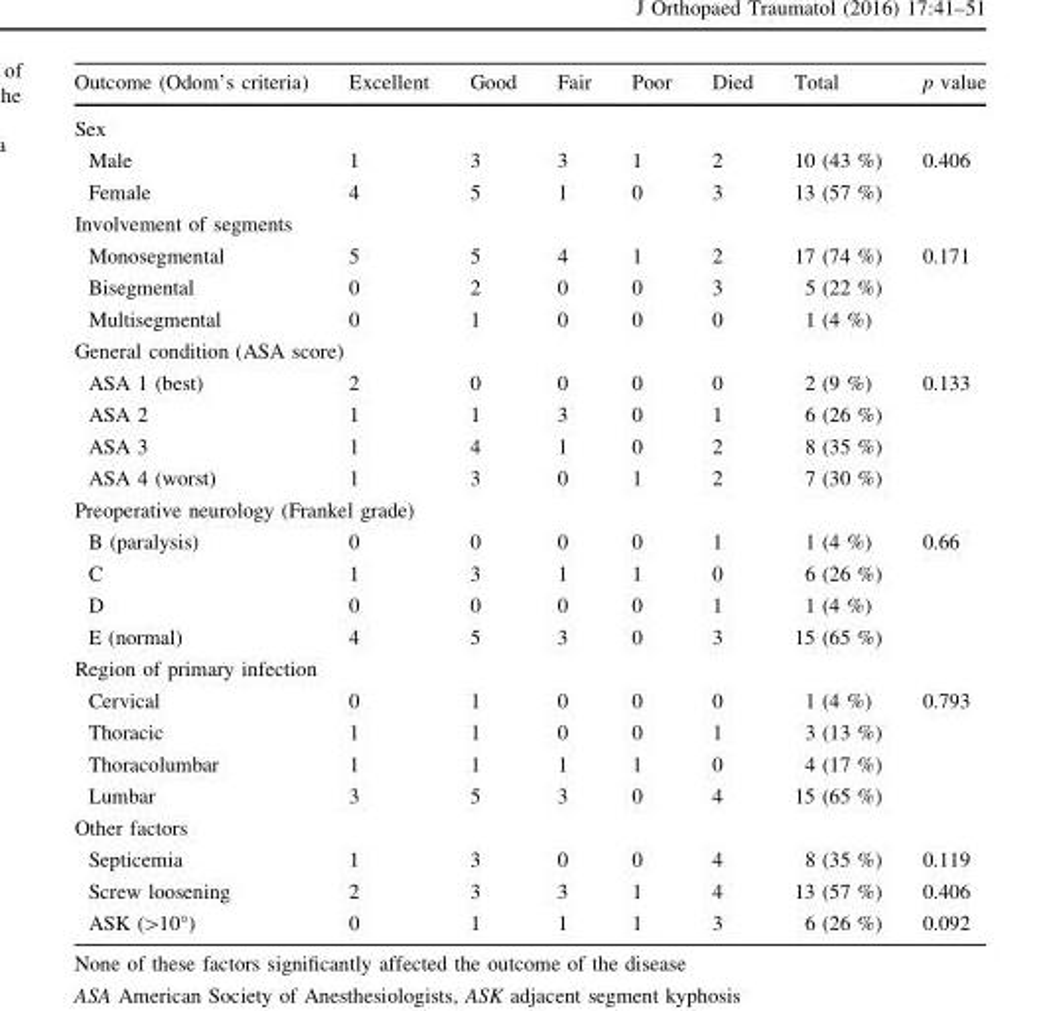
<table><thead><tr><td>Outcome (Odom’s criteria)</td><td>Excellent</td><td>Good</td><td>Fair</td><td>Poor</td><td>Died</td><td>Total</td><td>p value</td></tr></thead><tbody><tr><td colspan="8">Sex</td></tr><tr><td>Male</td><td>1</td><td>3</td><td>3</td><td>1</td><td>2</td><td>10 (43 %)</td><td rowspan="2">0.406</td></tr><tr><td>Female</td><td>4</td><td>5</td><td>1</td><td>0</td><td>3</td><td>13 (57 %)</td></tr><tr><td colspan="8">Involvement of segments</td></tr><tr><td>Monosegmental</td><td>5</td><td>5</td><td>4</td><td>1</td><td>2</td><td>17 (74 %)</td><td rowspan="3">0.171</td></tr><tr><td>Bisegmental</td><td>0</td><td>2</td><td>0</td><td>0</td><td>3</td><td>5 (22 %)</td></tr><tr><td>Multisegmental</td><td>0</td><td>1</td><td>0</td><td>0</td><td>0</td><td>1 (4 %)</td></tr><tr><td colspan="8">General condition (ASA score)</td></tr><tr><td>ASA 1 (best)</td><td>2</td><td>0</td><td>0</td><td>0</td><td>0</td><td>2 (9 %)</td><td rowspan="4">0.133</td></tr><tr><td>ASA 2</td><td>1</td><td>1</td><td>3</td><td>0</td><td>1</td><td>6 (26 %)</td></tr><tr><td>ASA 3</td><td>1</td><td>4</td><td>1</td><td>0</td><td>2</td><td>8 (35 %)</td></tr><tr><td>ASA 4 (worst)</td><td>1</td><td>3</td><td>0</td><td>1</td><td>2</td><td>7 (30 %)</td></tr><tr><td colspan="8">Preoperative neurology (Frankel grade)</td></tr><tr><td>B (paralysis)</td><td>0</td><td>0</td><td>0</td><td>0</td><td>1</td><td>1 (4 %)</td><td rowspan="4">0.66</td></tr><tr><td>C</td><td>1</td><td>3</td><td>1</td><td>1</td><td>0</td><td>6 (26 %)</td></tr><tr><td>D</td><td>0</td><td>0</td><td>0</td><td>0</td><td>1</td><td>1 (4 %)</td></tr><tr><td>E (normal)</td><td>4</td><td>5</td><td>3</td><td>0</td><td>3</td><td>15 (65 %)</td></tr><tr><td colspan="8">Region of primary infection</td></tr><tr><td>Cervical</td><td>0</td><td>1</td><td>0</td><td>0</td><td>0</td><td>1 (4 %)</td><td rowspan="4">0.793</td></tr><tr><td>Thoracic</td><td>1</td><td>1</td><td>0</td><td>0</td><td>1</td><td>3 (13 %)</td></tr><tr><td>Thoracolumbar</td><td>1</td><td>1</td><td>1</td><td>1</td><td>0</td><td>4 (17 %)</td></tr><tr><td>Lumbar</td><td>3</td><td>5</td><td>3</td><td>0</td><td>4</td><td>15 (65 %)</td></tr><tr><td colspan="8">Other factors</td></tr><tr><td>Septicemia</td><td>1</td><td>3</td><td>0</td><td>0</td><td>4</td><td>8 (35 %)</td><td>0.119</td></tr><tr><td>Screw loosening</td><td>2</td><td>3</td><td>3</td><td>1</td><td>4</td><td>13 (57 %)</td><td>0.406</td></tr><tr><td>ASK (&gt;10°)</td><td>0</td><td>1</td><td>1</td><td>1</td><td>3</td><td>6 (26 %)</td><td>0.092</td></tr></tbody></table>